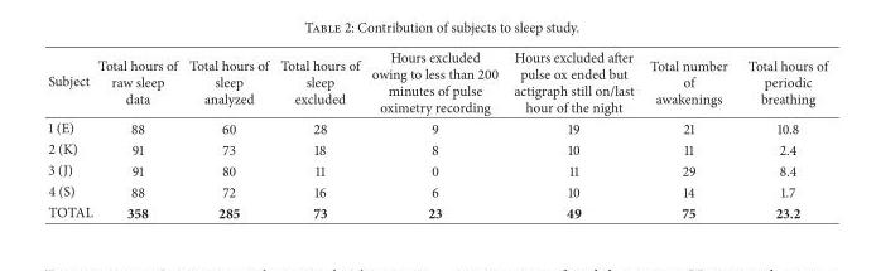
<table><thead><tr><td>Subject</td><td>Total hours of raw sleep data</td><td>Total hours of sleep analyzed</td><td>Total hours of sleep excluded</td><td>Hours excluded owing to less than 200 minutes of pulse oximetry recording</td><td>Hours excluded after pulse ox ended but actigraph still on/last hour of the night</td><td>Total number of awakenings</td><td>Total hours of periodic breathing</td></tr></thead><tbody><tr><td>1 (E)</td><td>88</td><td>60</td><td>28</td><td>9</td><td>19</td><td>21</td><td>10.8</td></tr><tr><td>2 (K)</td><td>91</td><td>73</td><td>18</td><td>8</td><td>10</td><td>11</td><td>2.4</td></tr><tr><td>3 (J)</td><td>91</td><td>80</td><td>11</td><td>0</td><td>11</td><td>29</td><td>8.4</td></tr><tr><td>4 (S)</td><td>88</td><td>72</td><td>16</td><td>6</td><td>10</td><td>14</td><td>1.7</td></tr><tr><td>TOTAL</td><td>358</td><td>285</td><td>73</td><td>23</td><td>49</td><td>75</td><td>23.2</td></tr></tbody></table>